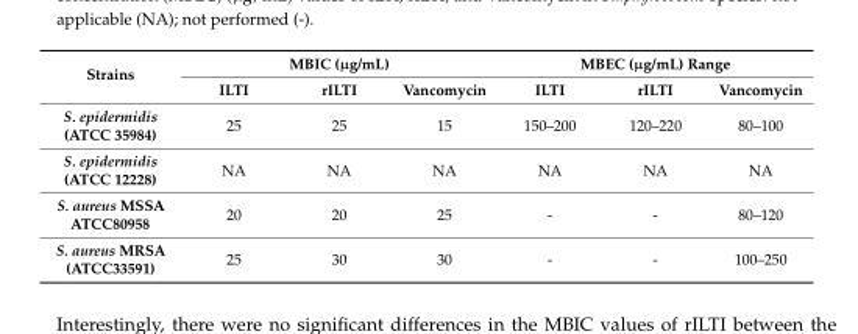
<table><thead><tr><td rowspan="2">Strains</td><td colspan="3">MBIC (µg/mL)</td><td colspan="3">MBEC (µg/mL) Range</td></tr><tr><td>ILTI</td><td>rILTI</td><td>Vancomycin</td><td>ILTI</td><td>rILTI</td><td>Vancomycin</td></tr></thead><tbody><tr><td>S. epidermidis (ATCC 35984)</td><td>25</td><td>25</td><td>15</td><td>150–200</td><td>120–220</td><td>80–100</td></tr><tr><td>S. epidermidis (ATCC 12228)</td><td>NA</td><td>NA</td><td>NA</td><td>NA</td><td>NA</td><td>NA</td></tr><tr><td>S. aureus MSSA ATCC80958</td><td>20</td><td>20</td><td>25</td><td><sup>-</sup></td><td><sup>-</sup></td><td>80–120</td></tr><tr><td>S. aureus MRSA (ATCC33591)</td><td>25</td><td>30</td><td>30</td><td><sup>-</sup></td><td><sup>-</sup></td><td>100–250</td></tr></tbody></table>